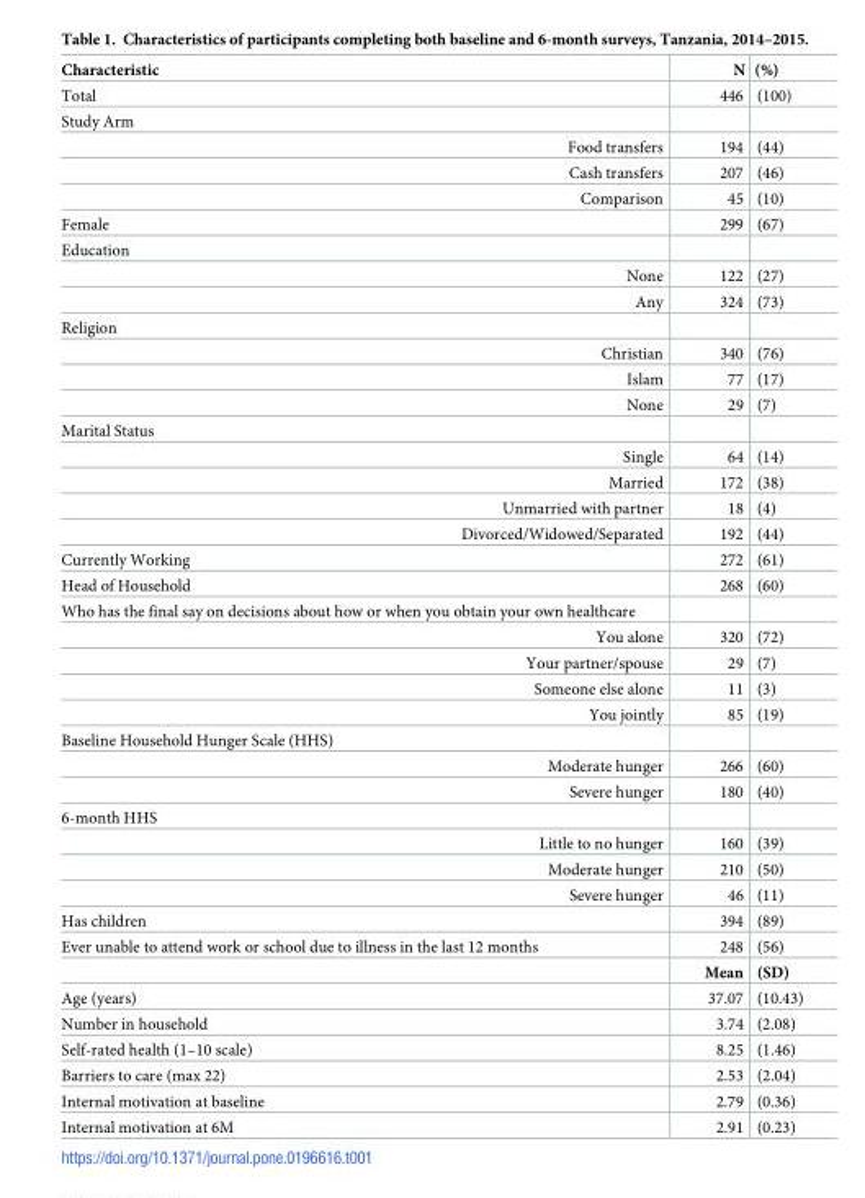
<table><thead><tr><td>Characteristic</td><td>N</td><td>(%)</td></tr></thead><tbody><tr><td>Total</td><td>446</td><td>(100)</td></tr><tr><td colspan="3">Study Arm</td></tr><tr><td>Food transfers</td><td>194</td><td>(44)</td></tr><tr><td>Cash transfers</td><td>207</td><td>(46)</td></tr><tr><td>Comparison</td><td>45</td><td>(10)</td></tr><tr><td>Female</td><td>299</td><td>(67)</td></tr><tr><td colspan="3">Education</td></tr><tr><td>None</td><td>122</td><td>(27)</td></tr><tr><td>Any</td><td>324</td><td>(73)</td></tr><tr><td colspan="3">Religion</td></tr><tr><td>Christian</td><td>340</td><td>(76)</td></tr><tr><td>Islam</td><td>77</td><td>(17)</td></tr><tr><td>None</td><td>29</td><td>(7)</td></tr><tr><td colspan="3">Marital Status</td></tr><tr><td>Single</td><td>64</td><td>(14)</td></tr><tr><td>Married</td><td>172</td><td>(38)</td></tr><tr><td>Unmarried with partner</td><td>18</td><td>(4)</td></tr><tr><td>Divorced/Widowed/Separated</td><td>192</td><td>(44)</td></tr><tr><td>Currently Working</td><td>272</td><td>(61)</td></tr><tr><td>Head of Household</td><td>268</td><td>(60)</td></tr><tr><td colspan="3">Who has the final say on decisions about how or when you obtain your own healthcare</td></tr><tr><td>You alone</td><td>320</td><td>(72)</td></tr><tr><td>Your partner/spouse</td><td>29</td><td>(7)</td></tr><tr><td>Someone else alone</td><td>11</td><td>(3)</td></tr><tr><td>You jointly</td><td>85</td><td>(19)</td></tr><tr><td colspan="3">Baseline Household Hunger Scale (HHS)</td></tr><tr><td>Moderate hunger</td><td>266</td><td>(60)</td></tr><tr><td>Severe hunger</td><td>180</td><td>(40)</td></tr><tr><td colspan="3">6-month HHS</td></tr><tr><td>Little to no hunger</td><td>160</td><td>(39)</td></tr><tr><td>Moderate hunger</td><td>210</td><td>(50)</td></tr><tr><td>Severe hunger</td><td>46</td><td>(11)</td></tr><tr><td>Has children</td><td>394</td><td>(89)</td></tr><tr><td rowspan="2">Ever unable to attend work or school due to illness in the last 12 months</td><td>248</td><td>(56)</td></tr><tr><td>Mean</td><td>(SD)</td></tr><tr><td>Age (years)</td><td>37.07</td><td>(10.43)</td></tr><tr><td>Number in household</td><td>3.74</td><td>(2.08)</td></tr><tr><td>Self-rated health (1–10 scale)</td><td>8.25</td><td>(1.46)</td></tr><tr><td>Barriers to care (max 22)</td><td>2.53</td><td>(2.04)</td></tr><tr><td>Internal motivation at baseline</td><td>2.79</td><td>(0.36)</td></tr><tr><td>Internal motivation at 6M</td><td>2.91</td><td>(0.23)</td></tr></tbody></table>